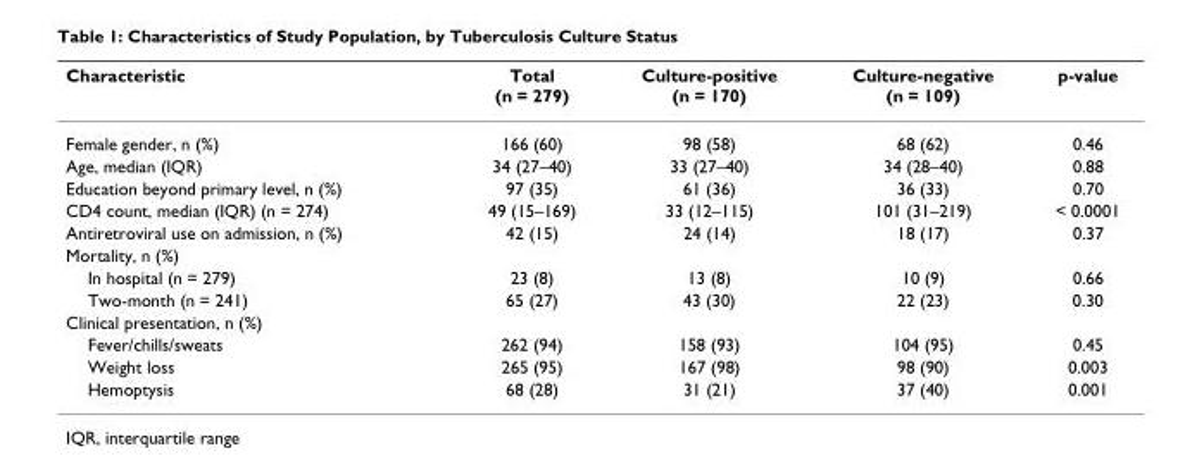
<table><thead><tr><td>Characteristic</td><td>Total (n = 279)</td><td>Culture-positive (n = 170)</td><td>Culture-negative (n = 109)</td><td>p-value</td></tr></thead><tbody><tr><td>Female gender, n (%)</td><td>166 (60)</td><td>98 (58)</td><td>68 (62)</td><td>0.46</td></tr><tr><td>Age, median (IQR)</td><td>34 (27–40)</td><td>33 (27–40)</td><td>34 (28–40)</td><td>0.88</td></tr><tr><td>Education beyond primary level, n (%)</td><td>97 (35)</td><td>61 (36)</td><td>36 (33)</td><td>0.70</td></tr><tr><td>CD4 count, median (IQR) (n = 274)</td><td>49 (15–169)</td><td>33 (12–115)</td><td>101 (31–219)</td><td>&lt; 0.0001</td></tr><tr><td>Antiretroviral use on admission, n (%)</td><td>42 (15)</td><td>24 (14)</td><td>18 (17)</td><td>0.37</td></tr><tr><td colspan="5">Mortality, n (%)</td></tr><tr><td>In hospital (n = 279)</td><td>23 (8)</td><td>13 (8)</td><td>10 (9)</td><td>0.66</td></tr><tr><td>Two-month (n = 241)</td><td>65 (27)</td><td>43 (30)</td><td>22 (23)</td><td>0.30</td></tr><tr><td colspan="5">Clinical presentation, n (%)</td></tr><tr><td>Fever/chills/sweats</td><td>262 (94)</td><td>158 (93)</td><td>104 (95)</td><td>0.45</td></tr><tr><td>Weight loss</td><td>265 (95)</td><td>167 (98)</td><td>98 (90)</td><td>0.003</td></tr><tr><td>Hemoptysis</td><td>68 (28)</td><td>31 (21)</td><td>37 (40)</td><td>0.001</td></tr></tbody></table>